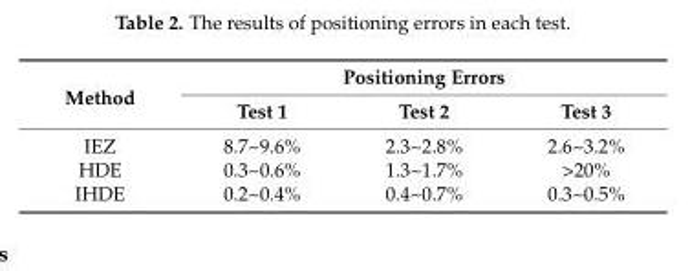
<table><thead><tr><td rowspan="2">Method</td><td colspan="3">Positioning Errors</td></tr><tr><td>Test 1</td><td>Test 2</td><td>Test 3</td></tr></thead><tbody><tr><td>IEZ</td><td>8.7~9.6%</td><td>2.3~2.8%</td><td>2.6~3.2%</td></tr><tr><td>HDE</td><td>0.3~0.6%</td><td>1.3~1.7%</td><td>&gt;20%</td></tr><tr><td>IHDE</td><td>0.2~0.4%</td><td>0.4~0.7%</td><td>0.3~0.5%</td></tr></tbody></table>